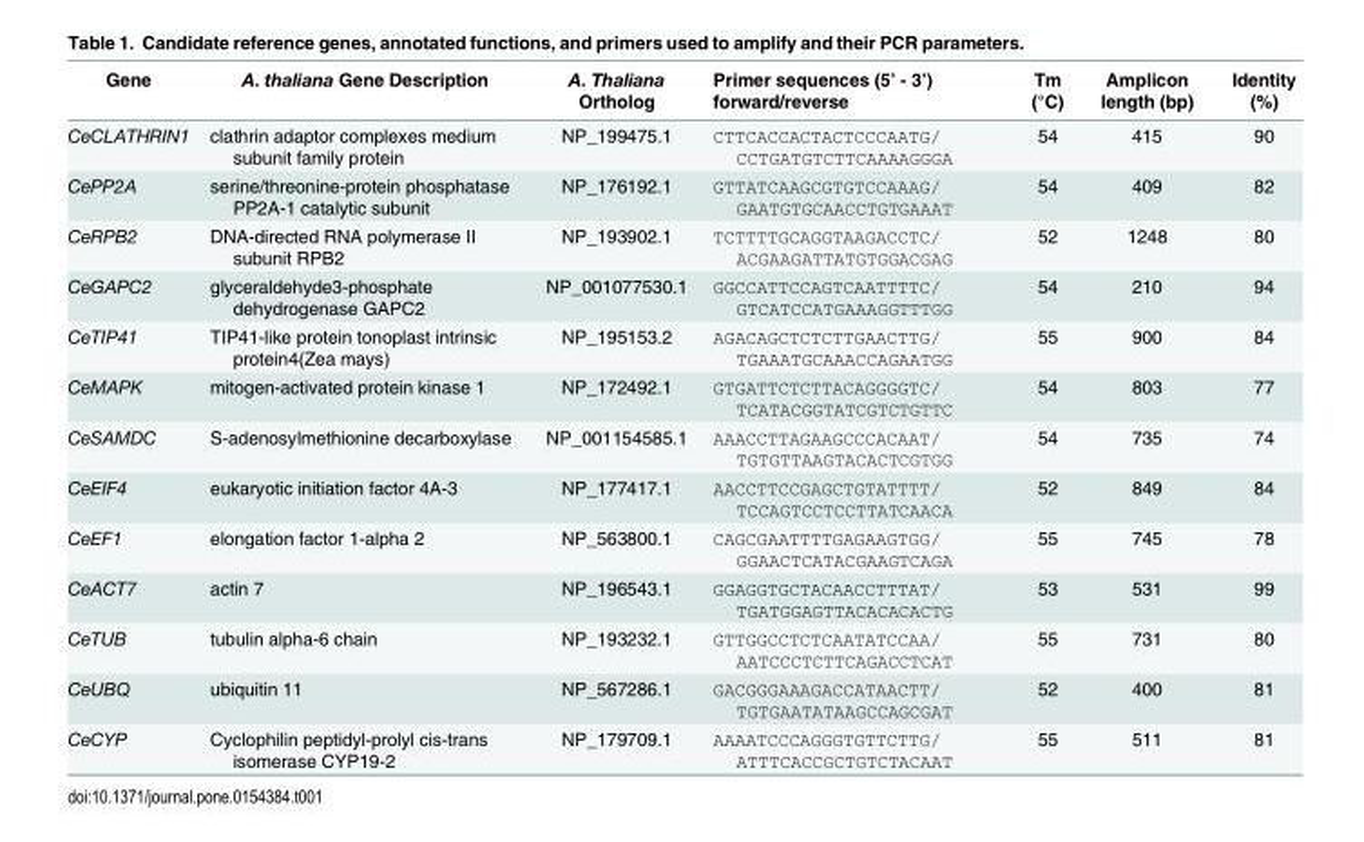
<table><thead><tr><td>Gene</td><td>A. thaliana Gene Description</td><td>A. Thaliana Ortholog</td><td>Primer sequences (5’ - 3’) forward/reverse</td><td>Tm (°C)</td><td>Amplicon length (bp)</td><td>Identity (%)</td></tr></thead><tbody><tr><td>CeCLATHRIN1</td><td>clathrin adaptor complexes medium subunit family protein</td><td>NP_199475.1</td><td>CTTCACCACTACTCCCAATG/ CCTGATGTCTTCAAAAGGGA</td><td>54</td><td>415</td><td>90</td></tr><tr><td>CePP2A</td><td>serine/threonine-protein phosphatase PP2A-1 catalytic subunit</td><td>NP_176192.1</td><td>GTTATCAAGCGTGTCCAAAG/ GAATGTGCAACCTGTGAAAT</td><td>54</td><td>409</td><td>82</td></tr><tr><td>CeRPB2</td><td>DNA-directed RNA polymerase II subunit RPB2</td><td>NP_193902.1</td><td>TCTTTTGCAGGTAAGACCTC/ ACGAAGATTATGTGGACGAG</td><td>52</td><td>1248</td><td>80</td></tr><tr><td>CeGAPC2</td><td>glyceraldehyde3-phosphate dehydrogenase GAPC2</td><td>NP_001077530.1</td><td>GGCCATTCCAGTCAATTTTC/ GTCATCCATGAAAGGTTTGG</td><td>54</td><td>210</td><td>94</td></tr><tr><td>CeTIP41</td><td>TIP41-like protein tonoplast intrinsic protein4(Zea mays)</td><td>NP_195153.2</td><td>AGACAGCTCTCTTGAACTTG/ TGAAATGCAAACCAGAATGG</td><td>55</td><td>900</td><td>84</td></tr><tr><td>CeMAPK</td><td>mitogen-activated protein kinase 1</td><td>NP_172492.1</td><td>GTGATTCTCTTACAGGGGTC/ TCATACGGTATCGTCTGTTC</td><td>54</td><td>803</td><td>77</td></tr><tr><td>CeSAMDC</td><td>S-adenosylmethionine decarboxylase</td><td>NP_001154585.1</td><td>AAACCTTAGAAGCCCACAAT/ TGTGTTAAGTACACTCGTGG</td><td>54</td><td>735</td><td>74</td></tr><tr><td>CeEIF4</td><td>eukaryotic initiation factor 4A-3</td><td>NP_177417.1</td><td>AACCTTCCGAGCTGTATTTT/ TCCAGTCCTCCTTATCAACA</td><td>52</td><td>849</td><td>84</td></tr><tr><td>CeEF1</td><td>elongation factor 1-alpha 2</td><td>NP_563800.1</td><td>CAGCGAATTTTGAGAAGTGG/ GGAACTCATACGAAGTCAGA</td><td>55</td><td>745</td><td>78</td></tr><tr><td>CeACT7</td><td>actin 7</td><td>NP_196543.1</td><td>GGAGGTGCTACAACCTTTAT/ TGATGGAGTTACACACACTG</td><td>53</td><td>531</td><td>99</td></tr><tr><td>CeTUB</td><td>tubulin alpha-6 chain</td><td>NP_193232.1</td><td>GTTGGCCTCTCAATATCCAA/ AATCCCTCTTCAGACCTCAT</td><td>55</td><td>731</td><td>80</td></tr><tr><td>CeUBQ</td><td>ubiquitin 11</td><td>NP_567286.1</td><td>GACGGGAAAGACCATAACTT/ TGTGAATATAAGCCAGCGAT</td><td>52</td><td>400</td><td>81</td></tr><tr><td>CeCYP</td><td>Cyclophilin peptidyl-prolyl cis-trans isomerase CYP19-2</td><td>NP_179709.1</td><td>AAAATCCCAGGGTGTTCTTG/ ATTTCACCGCTGTCTACAAT</td><td>55</td><td>511</td><td>81</td></tr></tbody></table>